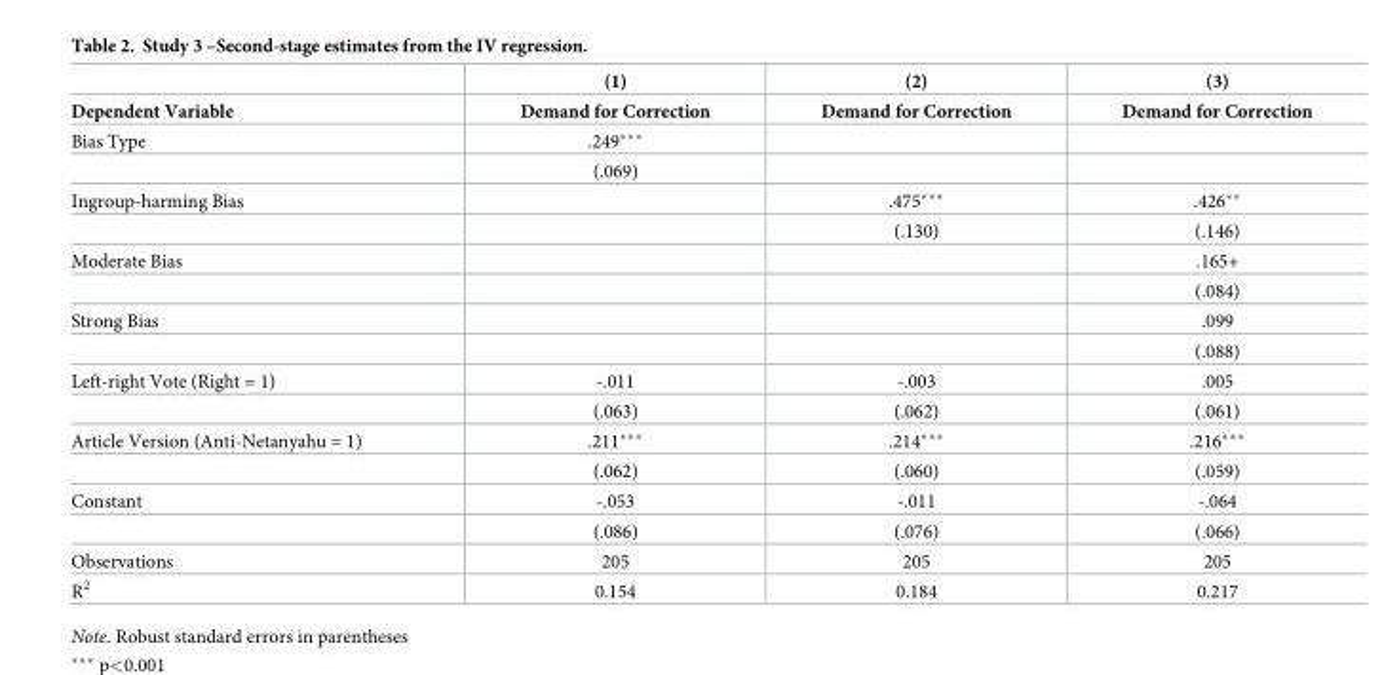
<table><thead><tr><td rowspan="2">Dependent Variable</td><td rowspan="2">(1) Demand for Correction</td><td rowspan="2">(2) Demand for Correction</td><td rowspan="2">(3) Demand for Correction</td></tr><tr></tr></thead><tbody><tr><td rowspan="2">Bias Type</td><td>.249***</td><td></td><td></td></tr><tr><td>(.069)</td><td></td><td></td></tr><tr><td rowspan="2">Ingroup-harming Bias</td><td></td><td>.475***</td><td>.426**</td></tr><tr><td></td><td>(.130)</td><td>(.146)</td></tr><tr><td rowspan="2">Moderate Bias</td><td></td><td></td><td>.165+</td></tr><tr><td></td><td></td><td>(.084)</td></tr><tr><td rowspan="2">Strong Bias</td><td></td><td></td><td>.099</td></tr><tr><td></td><td></td><td>(.088)</td></tr><tr><td rowspan="2">Left-right Vote (Right = 1)</td><td>-.011</td><td>-.003</td><td>.005</td></tr><tr><td>(.063)</td><td>(.062)</td><td>(.061)</td></tr><tr><td rowspan="2">Article Version (Anti-Netanyahu = 1)</td><td>.211***</td><td>.214***</td><td>.216***</td></tr><tr><td>(.062)</td><td>(.060)</td><td>(.059)</td></tr><tr><td rowspan="2">Constant</td><td>-.053</td><td>-.011</td><td>-.064</td></tr><tr><td>(.086)</td><td>(.076)</td><td>(.066)</td></tr><tr><td>Observations</td><td>205</td><td>205</td><td>205</td></tr><tr><td>R<sup>2</sup></td><td>0.154</td><td>0.184</td><td>0.217</td></tr></tbody></table>